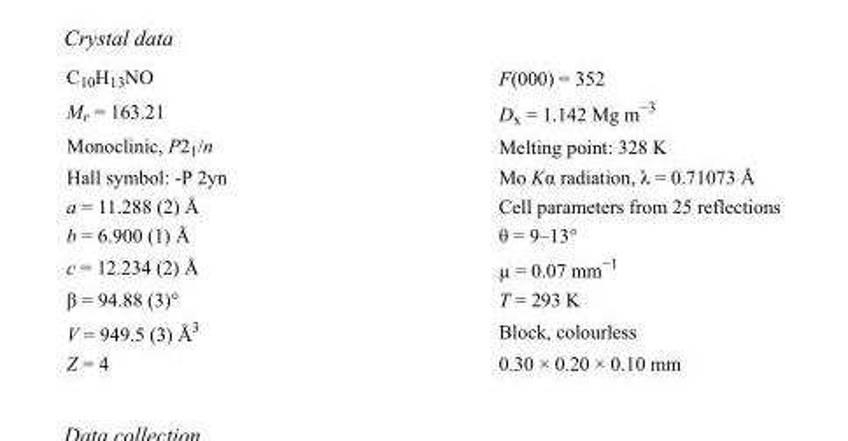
<table><tbody><tr><td>C<sub>10</sub>H<sub>13</sub>NO</td><td>F(000) = 352</td></tr><tr><td>M<sub>r</sub> = 163.21</td><td>D<sub>x</sub> = 1.142 Mg m<sup>−3</sup></td></tr><tr><td>Monoclinic, P2<sub>1</sub>/n</td><td>Melting point: 328 K</td></tr><tr><td>Hall symbol: -P 2yn</td><td>Mo Kα radiation, λ = 0.71073 Å</td></tr><tr><td>a = 11.288 (2) Å</td><td>Cell parameters from 25 reflections</td></tr><tr><td>b = 6.900 (1) Å</td><td>θ = 9–13°</td></tr><tr><td>c = 12.234 (2) Å</td><td>µ = 0.07 mm<sup>−1</sup></td></tr><tr><td>β = 94.88 (3)°</td><td>T = 293 K</td></tr><tr><td>V = 949.5 (3) Å<sup>3</sup></td><td>Block, colourless</td></tr><tr><td>Z = 4</td><td>0.30 × 0.20 × 0.10 mm</td></tr></tbody></table>